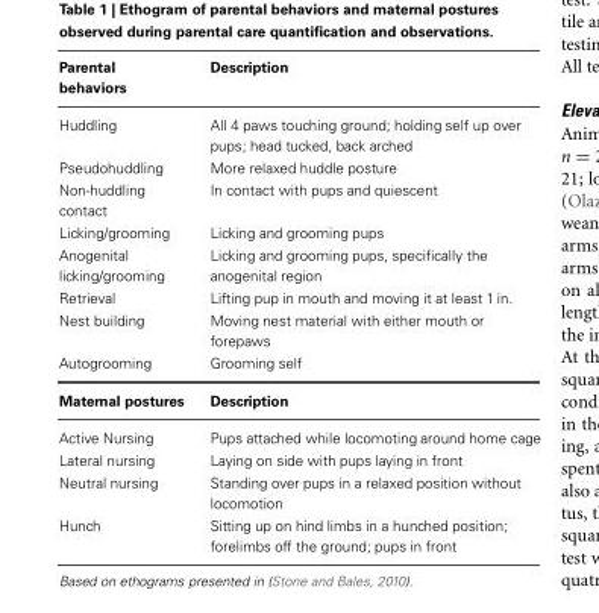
<table><thead><tr><td>Parental behaviors</td><td>Description</td></tr></thead><tbody><tr><td>Huddling</td><td>All 4 paws touching ground; holding self up over pups; head tucked, back arched</td></tr><tr><td>Pseudohuddling</td><td>More relaxed huddle posture</td></tr><tr><td>Non-huddling contact</td><td>In contact with pups and quiescent</td></tr><tr><td>Licking/grooming</td><td>Licking and grooming pups</td></tr><tr><td>Anogenital licking/grooming</td><td>Licking and grooming pups, specifically the anogenital region</td></tr><tr><td>Retrieval</td><td>Lifting pup in mouth and moving it at least 1 in.</td></tr><tr><td>Nest building</td><td>Moving nest material with either mouth or forepaws</td></tr><tr><td>Autogrooming</td><td>Grooming self</td></tr><tr><td>Maternal postures</td><td>Description</td></tr><tr><td>Active Nursing</td><td>Pups attached while locomoting around home cage</td></tr><tr><td>Lateral nursing</td><td>Laying on side with pups laying in front</td></tr><tr><td>Neutral nursing</td><td>Standing over pups in a relaxed position without locomotion</td></tr><tr><td>Hunch</td><td>Sitting up on hind limbs in a hunched position; forelimbs off the ground; pups in front</td></tr></tbody></table>